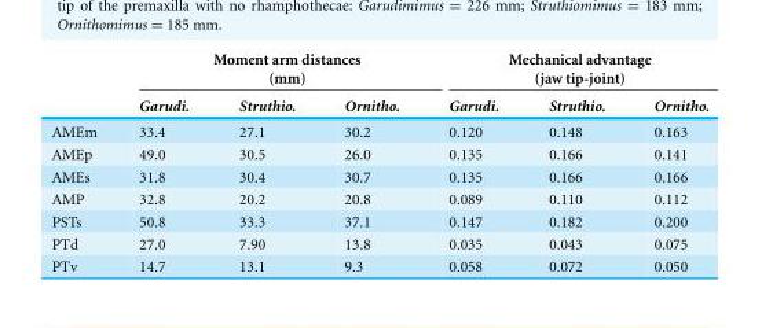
<table><thead><tr><td rowspan="2"></td><td colspan="3">Moment arm distances (mm)</td><td colspan="3">Mechanical advantage (jaw tip-joint)</td></tr><tr><td>Garudi.</td><td>Struthio.</td><td>Ornitho.</td><td>Garudi.</td><td>Struthio.</td><td>Ornitho.</td></tr></thead><tbody><tr><td>AMEm</td><td>33.4</td><td>27.1</td><td>30.2</td><td>0.120</td><td>0.148</td><td>0.163</td></tr><tr><td>AMEp</td><td>49.0</td><td>30.5</td><td>26.0</td><td>0.135</td><td>0.166</td><td>0.141</td></tr><tr><td>AMEs</td><td>31.8</td><td>30.4</td><td>30.7</td><td>0.135</td><td>0.166</td><td>0.166</td></tr><tr><td>AMP</td><td>32.8</td><td>20.2</td><td>20.8</td><td>0.089</td><td>0.110</td><td>0.112</td></tr><tr><td>PSTs</td><td>50.8</td><td>33.3</td><td>37.1</td><td>0.147</td><td>0.182</td><td>0.200</td></tr><tr><td>PTd</td><td>27.0</td><td>7.90</td><td>13.8</td><td>0.035</td><td>0.043</td><td>0.075</td></tr><tr><td>PTv</td><td>14.7</td><td>13.1</td><td>9.3</td><td>0.058</td><td>0.072</td><td>0.050</td></tr></tbody></table>